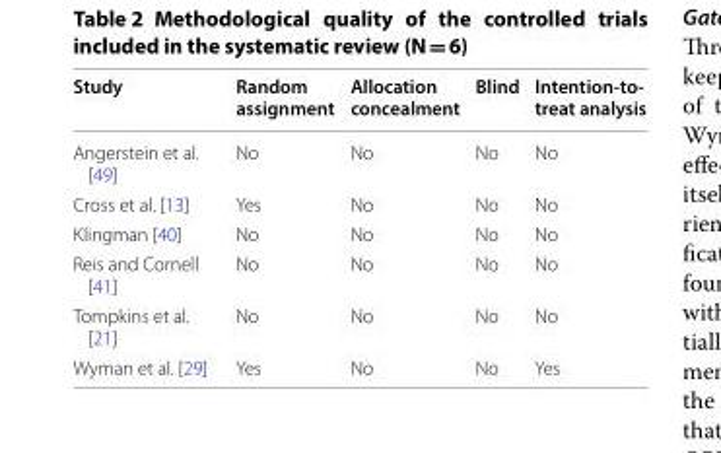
<table><thead><tr><td>Study</td><td>Random assignment</td><td>Allocation concealment</td><td>Blind</td><td>Intention‑to‑ treat analysis</td></tr></thead><tbody><tr><td>Angerstein et al. [49]</td><td>No</td><td>No</td><td>No</td><td>No</td></tr><tr><td>Cross et al. [13]</td><td>Yes</td><td>No</td><td>No</td><td>No</td></tr><tr><td>Klingman [40]</td><td>No</td><td>No</td><td>No</td><td>No</td></tr><tr><td>Reis and Cornell [41]</td><td>No</td><td>No</td><td>No</td><td>No</td></tr><tr><td>Tompkins et al. [21]</td><td>No</td><td>No</td><td>No</td><td>No</td></tr><tr><td>Wyman et al. [29]</td><td>Yes</td><td>No</td><td>No</td><td>Yes</td></tr></tbody></table>